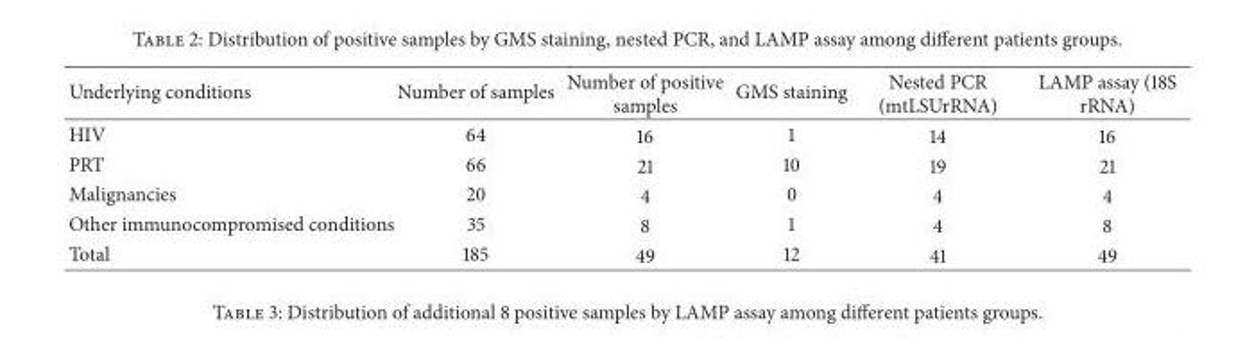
<table><thead><tr><td>Underlying conditions</td><td>Number of samples</td><td>Number of positive samples</td><td>GMS staining</td><td>Nested PCR (mtLSUrRNA)</td><td>LAMP assay (18S rRNA)</td></tr></thead><tbody><tr><td>HIV</td><td>64</td><td>16</td><td>1</td><td>14</td><td>16</td></tr><tr><td>PRT</td><td>66</td><td>21</td><td>10</td><td>19</td><td>21</td></tr><tr><td>Malignancies</td><td>20</td><td>4</td><td>0</td><td>4</td><td>4</td></tr><tr><td>Other immunocompromised conditions</td><td>35</td><td>8</td><td>1</td><td>4</td><td>8</td></tr><tr><td>Total</td><td>185</td><td>49</td><td>12</td><td>41</td><td>49</td></tr></tbody></table>